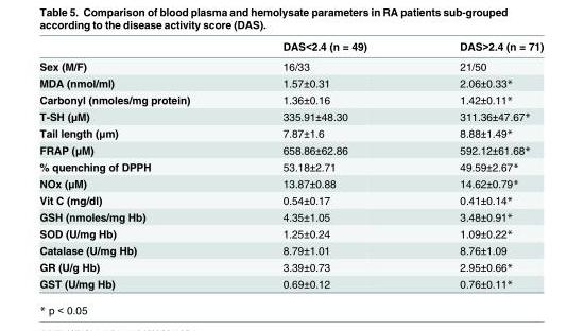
<table><thead><tr><td></td><td>DAS&lt;2.4 (n = 49)</td><td>DAS&gt;2.4 (n = 71)</td></tr></thead><tbody><tr><td>Sex (M/F)</td><td>16/33</td><td>21/50</td></tr><tr><td>MDA (nmol/ml)</td><td>1.57±0.31</td><td>2.06±0.33*</td></tr><tr><td>Carbonyl (nmoles/mg protein)</td><td>1.36±0.16</td><td>1.42±0.11*</td></tr><tr><td>T-SH (μM)</td><td>335.91±48.30</td><td>311.36±47.67*</td></tr><tr><td>Tail length (μm)</td><td>7.87±1.6</td><td>8.88±1.49*</td></tr><tr><td>FRAP (μM)</td><td>658.86±62.86</td><td>592.12±61.68*</td></tr><tr><td>% quenching of DPPH</td><td>53.18±2.71</td><td>49.59±2.67*</td></tr><tr><td>NOx (μM)</td><td>13.87±0.88</td><td>14.62±0.79*</td></tr><tr><td>Vit C (mg/dl)</td><td>0.54±0.17</td><td>0.41±0.14*</td></tr><tr><td>GSH (nmoles/mg Hb)</td><td>4.35±1.05</td><td>3.48±0.91*</td></tr><tr><td>SOD (U/mg Hb)</td><td>1.25±0.24</td><td>1.09±0.22*</td></tr><tr><td>Catalase (U/mg Hb)</td><td>8.79±1.01</td><td>8.76±1.09</td></tr><tr><td>GR (U/g Hb)</td><td>3.39±0.73</td><td>2.95±0.66*</td></tr><tr><td>GST (U/mg Hb)</td><td>0.69±0.12</td><td>0.76±0.11*</td></tr></tbody></table>